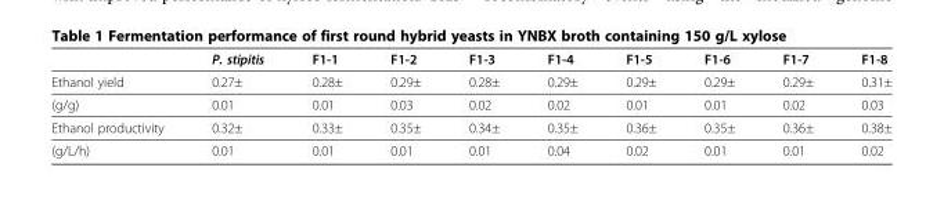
<table><thead><tr><td></td><td>P. stipitis</td><td>F1-1</td><td>F1-2</td><td>F1-3</td><td>F1-4</td><td>F1-5</td><td>F1-6</td><td>F1-7</td><td>F1-8</td></tr></thead><tbody><tr><td>Ethanol yield</td><td>0.27±</td><td>0.28±</td><td>0.29±</td><td>0.28±</td><td>0.29±</td><td>0.29±</td><td>0.29±</td><td>0.29±</td><td>0.31±</td></tr><tr><td>(g/g)</td><td>0.01</td><td>0.01</td><td>0.03</td><td>0.02</td><td>0.02</td><td>0.01</td><td>0.01</td><td>0.02</td><td>0.03</td></tr><tr><td>Ethanol productivity</td><td>0.32±</td><td>0.33±</td><td>0.35±</td><td>0.34±</td><td>0.35±</td><td>0.36±</td><td>0.35±</td><td>0.36±</td><td>0.38±</td></tr><tr><td>(g/L/h)</td><td>0.01</td><td>0.01</td><td>0.01</td><td>0.01</td><td>0.04</td><td>0.02</td><td>0.01</td><td>0.01</td><td>0.02</td></tr></tbody></table>